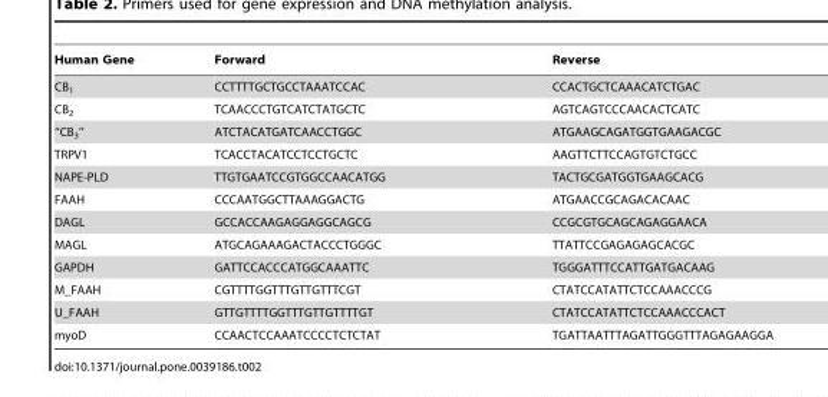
<table><thead><tr><td>Human Gene</td><td>Forward</td><td>Reverse</td></tr></thead><tbody><tr><td>CB<sub>1</sub></td><td>CCTTTTGCTGCCTAAATCCAC</td><td>CCACTGCTCAAACATCTGAC</td></tr><tr><td>CB<sub>2</sub></td><td>TCAACCCTGTCATCTATGCTC</td><td>AGTCAGTCCCAACACTCATC</td></tr><tr><td>‘‘CB3’’</td><td>ATCTACATGATCAACCTGGC</td><td>ATGAAGCAGATGGTGAAGACGC</td></tr><tr><td>TRPV1</td><td>TCACCTACATCCTCCTGCTC</td><td>AAGTTCTTCCAGTGTCTGCC</td></tr><tr><td>NAPE-PLD</td><td>TTGTGAATCCGTGGCCAACATGG</td><td>TACTGCGATGGTGAAGCACG</td></tr><tr><td>FAAH</td><td>CCCAATGGCTTAAAGGACTG</td><td>ATGAACCGCAGACACAAC</td></tr><tr><td>DAGL</td><td>GCCACCAAGAGGAGGCAGCG</td><td>CCGCGTGCAGCAGAGGAACA</td></tr><tr><td>MAGL</td><td>ATGCAGAAAGACTACCCTGGGC</td><td>TTATTCCGAGAGAGCACGC</td></tr><tr><td>GAPDH</td><td>GATTCCACCCATGGCAAATTC</td><td>TGGGATTTCCATTGATGACAAG</td></tr><tr><td>M_FAAH</td><td>CGTTTTGGTTTGTTGTTTCGT</td><td>CTATCCATATTCTCCAAACCCG</td></tr><tr><td>U_FAAH</td><td>GTTGTTTTGGTTTGTTGTTTTGT</td><td>CTATCCATATTCTCCAAACCCACT</td></tr><tr><td>myoD</td><td>CCAACTCCAAATCCCCTCTCTAT</td><td>TGATTAATTTAGATTGGGTTTAGAGAAGGA</td></tr></tbody></table>